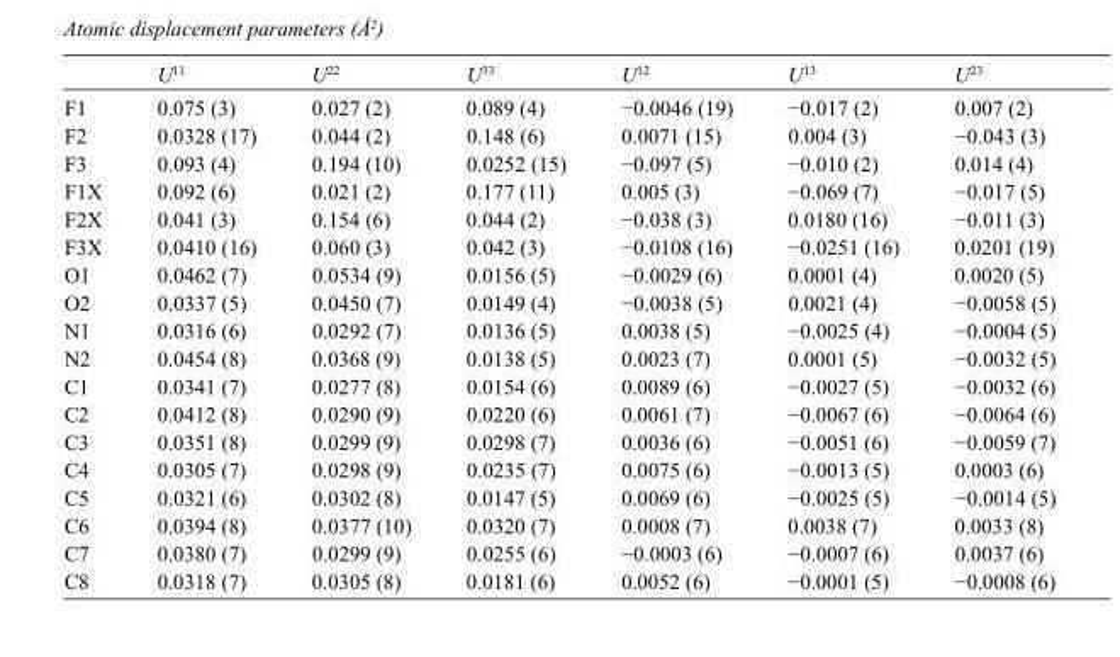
<table><thead><tr><td></td><td>U<sup>11</sup></td><td>U<sup>22</sup></td><td>U<sup>33</sup></td><td>U<sup>12</sup></td><td>U<sup>13</sup></td><td>U<sup>23</sup></td></tr></thead><tbody><tr><td>F1</td><td>0.075 (3)</td><td>0.027 (2)</td><td>0.089 (4)</td><td>−0.0046 (19)</td><td>−0.017 (2)</td><td>0.007 (2)</td></tr><tr><td>F2</td><td>0.0328 (17)</td><td>0.044 (2)</td><td>0.148 (6)</td><td>0.0071 (15)</td><td>0.004 (3)</td><td>−0.043 (3)</td></tr><tr><td>F3</td><td>0.093 (4)</td><td>0.194 (10)</td><td>0.0252 (15)</td><td>−0.097 (5)</td><td>−0.010 (2)</td><td>0.014 (4)</td></tr><tr><td>F1X</td><td>0.092 (6)</td><td>0.021 (2)</td><td>0.177 (11)</td><td>0.005 (3)</td><td>−0.069 (7)</td><td>−0.017 (5)</td></tr><tr><td>F2X</td><td>0.041 (3)</td><td>0.154 (6)</td><td>0.044 (2)</td><td>−0.038 (3)</td><td>0.0180 (16)</td><td>−0.011 (3)</td></tr><tr><td>F3X</td><td>0.0410 (16)</td><td>0.060 (3)</td><td>0.042 (3)</td><td>−0.0108 (16)</td><td>−0.0251 (16)</td><td>0.0201 (19)</td></tr><tr><td>O1</td><td>0.0462 (7)</td><td>0.0534 (9)</td><td>0.0156 (5)</td><td>−0.0029 (6)</td><td>0.0001 (4)</td><td>0.0020 (5)</td></tr><tr><td>O2</td><td>0.0337 (5)</td><td>0.0450 (7)</td><td>0.0149 (4)</td><td>−0.0038 (5)</td><td>0.0021 (4)</td><td>−0.0058 (5)</td></tr><tr><td>N1</td><td>0.0316 (6)</td><td>0.0292 (7)</td><td>0.0136 (5)</td><td>0.0038 (5)</td><td>−0.0025 (4)</td><td>−0.0004 (5)</td></tr><tr><td>N2</td><td>0.0454 (8)</td><td>0.0368 (9)</td><td>0.0138 (5)</td><td>0.0023 (7)</td><td>0.0001 (5)</td><td>−0.0032 (5)</td></tr><tr><td>C1</td><td>0.0341 (7)</td><td>0.0277 (8)</td><td>0.0154 (6)</td><td>0.0089 (6)</td><td>−0.0027 (5)</td><td>−0.0032 (6)</td></tr><tr><td>C2</td><td>0.0412 (8)</td><td>0.0290 (9)</td><td>0.0220 (6)</td><td>0.0061 (7)</td><td>−0.0067 (6)</td><td>−0.0064 (6)</td></tr><tr><td>C3</td><td>0.0351 (8)</td><td>0.0299 (9)</td><td>0.0298 (7)</td><td>0.0036 (6)</td><td>−0.0051 (6)</td><td>−0.0059 (7)</td></tr><tr><td>C4</td><td>0.0305 (7)</td><td>0.0298 (9)</td><td>0.0235 (7)</td><td>0.0075 (6)</td><td>−0.0013 (5)</td><td>0.0003 (6)</td></tr><tr><td>C5</td><td>0.0321 (6)</td><td>0.0302 (8)</td><td>0.0147 (5)</td><td>0.0069 (6)</td><td>−0.0025 (5)</td><td>−0.0014 (5)</td></tr><tr><td>C6</td><td>0.0394 (8)</td><td>0.0377 (10)</td><td>0.0320 (7)</td><td>0.0008 (7)</td><td>0.0038 (7)</td><td>0.0033 (8)</td></tr><tr><td>C7</td><td>0.0380 (7)</td><td>0.0299 (9)</td><td>0.0255 (6)</td><td>−0.0003 (6)</td><td>−0.0007 (6)</td><td>0.0037 (6)</td></tr><tr><td>C8</td><td>0.0318 (7)</td><td>0.0305 (8)</td><td>0.0181 (6)</td><td>0.0052 (6)</td><td>−0.0001 (5)</td><td>−0.0008 (6)</td></tr></tbody></table>